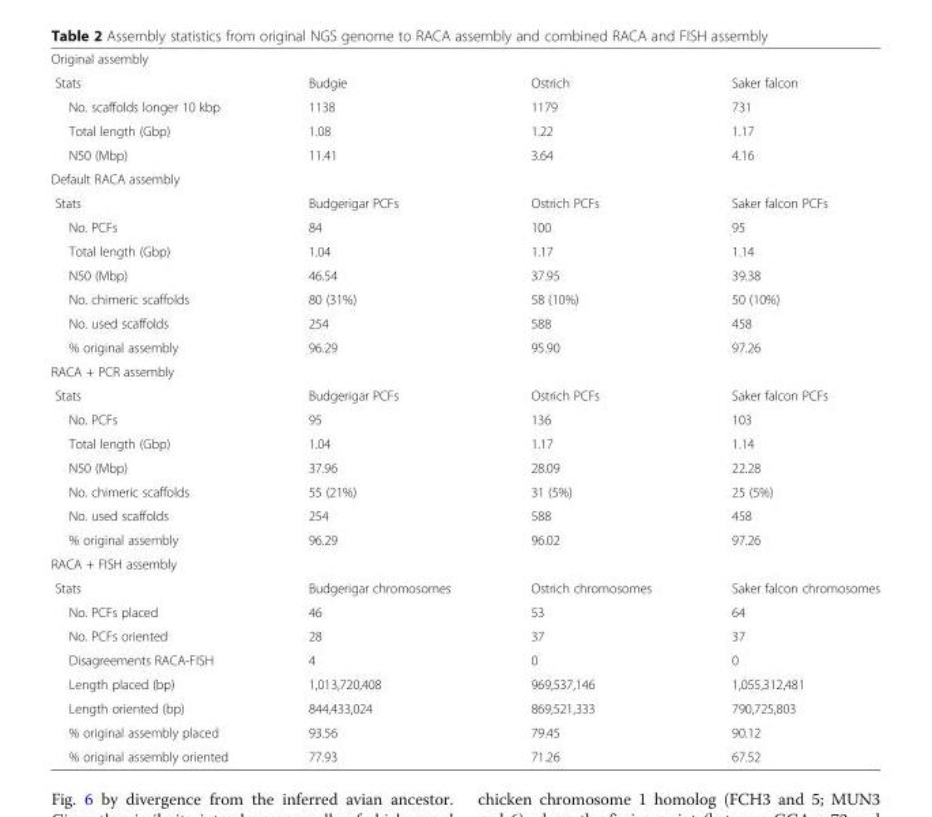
<table><tbody><tr><td colspan="4">Original assembly</td></tr><tr><td>Stats</td><td>Budgie</td><td>Ostrich</td><td>Saker falcon</td></tr><tr><td>No. scaffolds longer 10 kbp</td><td>1138</td><td>1179</td><td>731</td></tr><tr><td>Total length (Gbp)</td><td>1.08</td><td>1.22</td><td>1.17</td></tr><tr><td>N50 (Mbp)</td><td>11.41</td><td>3.64</td><td>4.16</td></tr><tr><td colspan="4">Default RACA assembly</td></tr><tr><td>Stats</td><td>Budgerigar PCFs</td><td>Ostrich PCFs</td><td>Saker falcon PCFs</td></tr><tr><td>No. PCFs</td><td>84</td><td>100</td><td>95</td></tr><tr><td>Total length (Gbp)</td><td>1.04</td><td>1.17</td><td>1.14</td></tr><tr><td>N50 (Mbp)</td><td>46.54</td><td>37.95</td><td>39.38</td></tr><tr><td>No. chimeric scaffolds</td><td>80 (31%)</td><td>58 (10%)</td><td>50 (10%)</td></tr><tr><td>No. used scaffolds</td><td>254</td><td>588</td><td>458</td></tr><tr><td>% original assembly</td><td>96.29</td><td>95.90</td><td>97.26</td></tr><tr><td colspan="4">RACA + PCR assembly</td></tr><tr><td>Stats</td><td>Budgerigar PCFs</td><td>Ostrich PCFs</td><td>Saker falcon PCFs</td></tr><tr><td>No. PCFs</td><td>95</td><td>136</td><td>103</td></tr><tr><td>Total length (Gbp)</td><td>1.04</td><td>1.17</td><td>1.14</td></tr><tr><td>N50 (Mbp)</td><td>37.96</td><td>28.09</td><td>22.28</td></tr><tr><td>No. chimeric scaffolds</td><td>55 (21%)</td><td>31 (5%)</td><td>25 (5%)</td></tr><tr><td>No. used scaffolds</td><td>254</td><td>588</td><td>458</td></tr><tr><td>% original assembly</td><td>96.29</td><td>96.02</td><td>97.26</td></tr><tr><td colspan="4">RACA + FISH assembly</td></tr><tr><td>Stats</td><td>Budgerigar chromosomes</td><td>Ostrich chromosomes</td><td>Saker falcon chromosomes</td></tr><tr><td>No. PCFs placed</td><td>46</td><td>53</td><td>64</td></tr><tr><td>No. PCFs oriented</td><td>28</td><td>37</td><td>37</td></tr><tr><td>Disagreements RACA-FISH</td><td>4</td><td>0</td><td>0</td></tr><tr><td>Length placed (bp)</td><td>1,013,720,408</td><td>969,537,146</td><td>1,055,312,481</td></tr><tr><td>Length oriented (bp)</td><td>844,433,024</td><td>869,521,333</td><td>790,725,803</td></tr><tr><td>% original assembly placed</td><td>93.56</td><td>79.45</td><td>90.12</td></tr><tr><td>% original assembly oriented</td><td>77.93</td><td>71.26</td><td>67.52</td></tr></tbody></table>